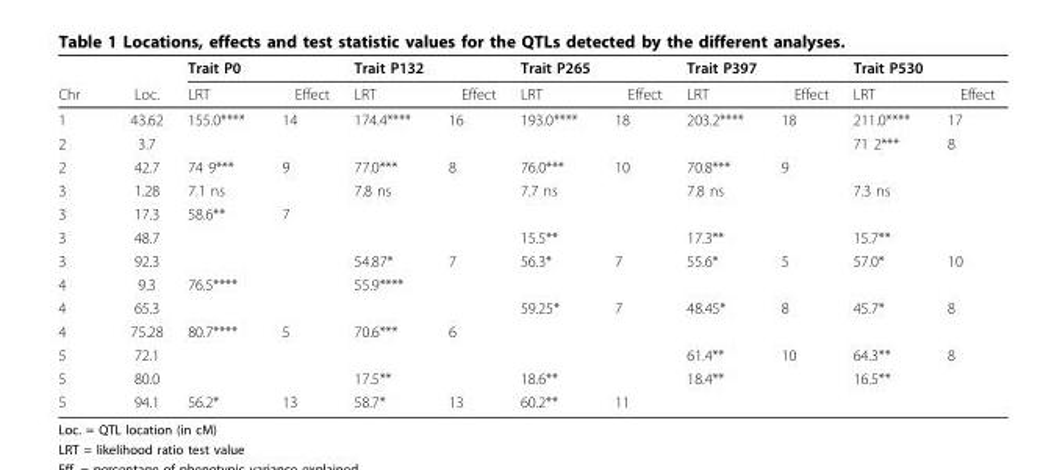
<table><thead><tr><td rowspan="2">Chr</td><td rowspan="2">Loc.</td><td colspan="2">Trait P0</td><td colspan="2">Trait P132</td><td colspan="2">Trait P265</td><td colspan="2">Trait P397</td><td colspan="2">Trait P530</td></tr><tr><td>LRT</td><td>Effect</td><td>LRT</td><td>Effect</td><td>LRT</td><td>Effect</td><td>LRT</td><td>Effect</td><td>LRT</td><td>Effect</td></tr></thead><tbody><tr><td>1</td><td>43.62</td><td>155.0****</td><td>14</td><td>174.4****</td><td>16</td><td>193.0****</td><td>18</td><td>203.2****</td><td>18</td><td>211.0****</td><td>17</td></tr><tr><td>2</td><td>3.7</td><td></td><td></td><td></td><td></td><td></td><td></td><td></td><td></td><td>71 2***</td><td>8</td></tr><tr><td>2</td><td>42.7</td><td>74 9***</td><td>9</td><td>77.0***</td><td>8</td><td>76.0***</td><td>10</td><td>70.8***</td><td>9</td><td></td><td></td></tr><tr><td>3</td><td>1.28</td><td>7.1 ns</td><td></td><td>7.8 ns</td><td></td><td>7.7 ns</td><td></td><td>7.8 ns</td><td></td><td>7.3 ns</td><td></td></tr><tr><td>3</td><td>17.3</td><td>58.6**</td><td>7</td><td></td><td></td><td></td><td></td><td></td><td></td><td></td><td></td></tr><tr><td>3</td><td>48.7</td><td></td><td></td><td></td><td></td><td>15.5**</td><td></td><td>17.3**</td><td></td><td>15.7**</td><td></td></tr><tr><td>3</td><td>92.3</td><td></td><td></td><td>54.87*</td><td>7</td><td>56.3*</td><td>7</td><td>55.6*</td><td>5</td><td>57.0*</td><td>10</td></tr><tr><td>4</td><td>9.3</td><td>76.5****</td><td></td><td>55.9****</td><td></td><td></td><td></td><td></td><td></td><td></td><td></td></tr><tr><td>4</td><td>65.3</td><td></td><td></td><td></td><td></td><td>59.25*</td><td>7</td><td>48.45*</td><td>8</td><td>45.7*</td><td>8</td></tr><tr><td>4</td><td>75.28</td><td>80.7****</td><td>5</td><td>70.6***</td><td>6</td><td></td><td></td><td></td><td></td><td></td><td></td></tr><tr><td>5</td><td>72.1</td><td></td><td></td><td></td><td></td><td></td><td></td><td>61.4**</td><td>10</td><td>64.3**</td><td>8</td></tr><tr><td>5</td><td>80.0</td><td></td><td></td><td>17.5**</td><td></td><td>18.6**</td><td></td><td>18.4**</td><td></td><td>16.5**</td><td></td></tr><tr><td>5</td><td>94.1</td><td>56.2*</td><td>13</td><td>58.7*</td><td>13</td><td>60.2**</td><td>11</td><td></td><td></td><td></td><td></td></tr></tbody></table>